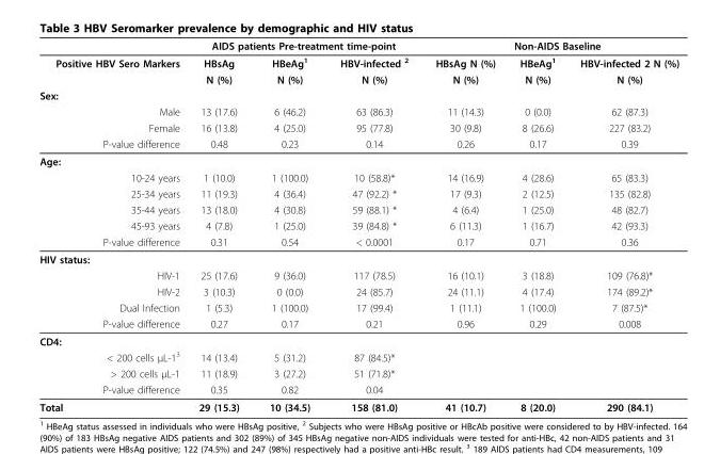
<table><thead><tr><td rowspan="2">Positive HBV Sero Markers</td><td colspan="3">AIDS patients Pre-treatment time-point</td><td colspan="3">Non-AIDS Baseline</td></tr><tr><td>HBsAg</td><td>HBeAg<sup>1</sup></td><td>HBV-infected <sup>2</sup></td><td>HBsAg N (%)</td><td>HBeAg<sup>1</sup></td><td>HBV-infected 2 N (%)</td></tr></thead><tbody><tr><td></td><td>N (%)</td><td>N (%)</td><td>N (%)</td><td>N (%)</td><td>N (%)</td><td>N (%)</td></tr><tr><td colspan="7">Sex:</td></tr><tr><td>Male</td><td>13 (17.6)</td><td>6 (46.2)</td><td>63 (86.3)</td><td>11 (14.3)</td><td>0 (0.0)</td><td>62 (87.3)</td></tr><tr><td>Female</td><td>16 (13.8)</td><td>4 (25.0)</td><td>95 (77.8)</td><td>30 (9.8)</td><td>8 (26.6)</td><td>227 (83.2)</td></tr><tr><td>P-value difference</td><td>0.48</td><td>0.23</td><td>0.14</td><td>0.26</td><td>0.17</td><td>0.39</td></tr><tr><td colspan="7">Age:</td></tr><tr><td>10-24 years</td><td>1 (10.0)</td><td>1 (100.0)</td><td>10 (58.8)*</td><td>14 (16.9)</td><td>4 (28.6)</td><td>65 (83.3)</td></tr><tr><td>25-34 years</td><td>11 (19.3)</td><td>4 (36.4)</td><td>47 (92.2) *</td><td>17 (9.3)</td><td>2 (12.5)</td><td>135 (82.8)</td></tr><tr><td>35-44 years</td><td>13 (18.0)</td><td>4 (30.8)</td><td>59 (88.1) *</td><td>4 (6.4)</td><td>1 (25.0)</td><td>48 (82.7)</td></tr><tr><td>45-93 years</td><td>4 (7.8)</td><td>1 (25.0)</td><td>39 (84.8) *</td><td>6 (11.3)</td><td>1 (16.7)</td><td>42 (93.3)</td></tr><tr><td>P-value difference</td><td>0.31</td><td>0.54</td><td>&lt; 0.0001</td><td>0.17</td><td>0.71</td><td>0.36</td></tr><tr><td colspan="7">HIV status:</td></tr><tr><td>HIV-1</td><td>25 (17.6)</td><td>9 (36.0)</td><td>117 (78.5)</td><td>16 (10.1)</td><td>3 (18.8)</td><td>109 (76.8)*</td></tr><tr><td>HIV-2</td><td>3 (10.3)</td><td>0 (0.0)</td><td>24 (85.7)</td><td>24 (11.1)</td><td>4 (17.4)</td><td>174 (89.2)*</td></tr><tr><td>Dual Infection</td><td>1 (5.3)</td><td>1 (100.0)</td><td>17 (99.4)</td><td>1 (11.1)</td><td>1 (100.0)</td><td>7 (87.5)*</td></tr><tr><td>P-value difference</td><td>0.27</td><td>0.17</td><td>0.21</td><td>0.96</td><td>0.29</td><td>0.008</td></tr><tr><td colspan="7">CD4:</td></tr><tr><td>&lt; 200 cells μL-1<sup>3</sup></td><td>14 (13.4)</td><td>5 (31.2)</td><td>87 (84.5)*</td><td></td><td></td><td></td></tr><tr><td>&gt; 200 cells μL-1</td><td>11 (18.9)</td><td>3 (27.2)</td><td>51 (71.8)*</td><td></td><td></td><td></td></tr><tr><td>P-value difference</td><td>0.35</td><td>0.82</td><td>0.04</td><td></td><td></td><td></td></tr><tr><td>Total</td><td>29 (15.3)</td><td>10 (34.5)</td><td>158 (81.0)</td><td>41 (10.7)</td><td>8 (20.0)</td><td>290 (84.1)</td></tr></tbody></table>